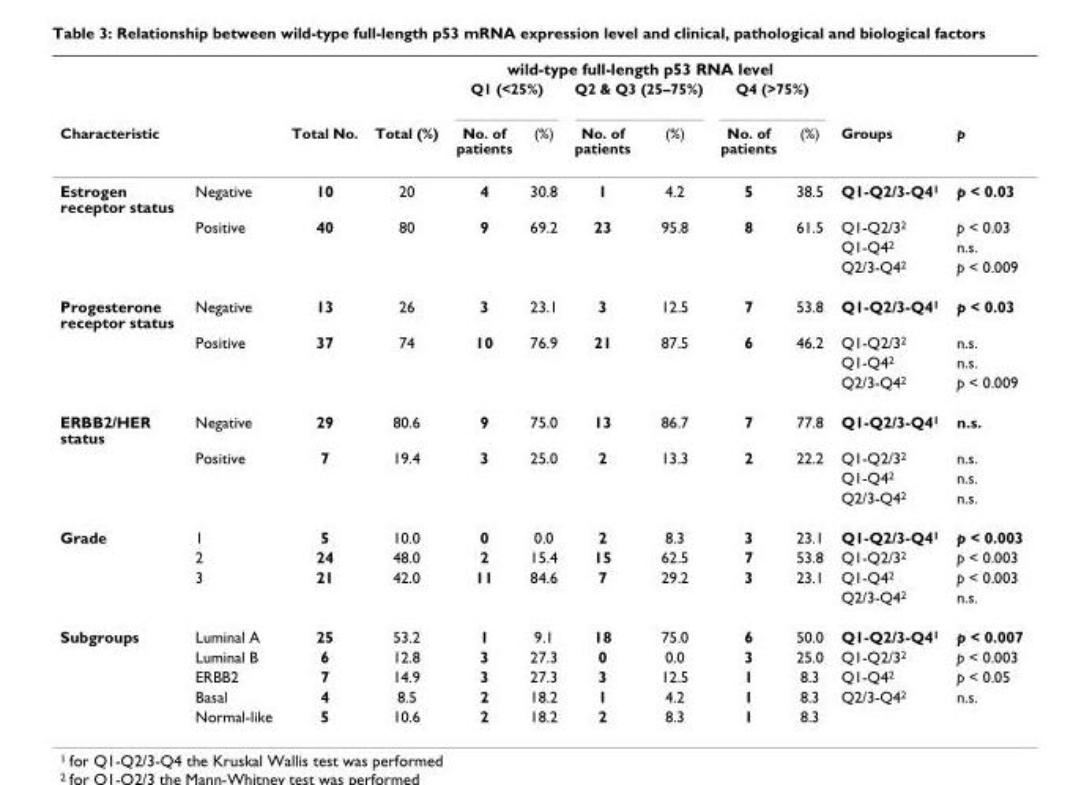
<table><thead><tr><td rowspan="3">Characteristic</td><td rowspan="3"></td><td rowspan="3">Total No.</td><td rowspan="3">Total (%)</td><td colspan="6">wild-type full-length p53 RNA level</td><td rowspan="3">Groups</td><td rowspan="3">p</td></tr><tr><td colspan="2">Q1 (&lt;25%)</td><td colspan="2">Q2 &amp; Q3 (25–75%)</td><td colspan="2">Q4 (&gt;75%)</td></tr><tr><td>No. of patients</td><td>(%)</td><td>No. of patients</td><td>(%)</td><td>No. of patients</td><td>(%)</td></tr></thead><tbody><tr><td rowspan="4">Estrogen receptor status</td><td>Negative</td><td>10</td><td>20</td><td>4</td><td>30.8</td><td>1</td><td>4.2</td><td>5</td><td>38.5</td><td>Q1-Q2/3-Q4<sup>1</sup></td><td>p &lt; 0.03</td></tr><tr><td>Positive</td><td>40</td><td>80</td><td>9</td><td>69.2</td><td>23</td><td>95.8</td><td>8</td><td>61.5</td><td>Q1-Q2/3<sup>2</sup></td><td>p &lt; 0.03</td></tr><tr><td></td><td></td><td></td><td></td><td></td><td></td><td></td><td></td><td></td><td>Q1-Q4<sup>2</sup></td><td>n.s.</td></tr><tr><td></td><td></td><td></td><td></td><td></td><td></td><td></td><td></td><td></td><td>Q2/3-Q4<sup>2</sup></td><td>p &lt; 0.009</td></tr><tr><td rowspan="4">Progesterone receptor status</td><td>Negative</td><td>13</td><td>26</td><td>3</td><td>23.1</td><td>3</td><td>12.5</td><td>7</td><td>53.8</td><td>Q1-Q2/3-Q4<sup>1</sup></td><td>p &lt; 0.03</td></tr><tr><td>Positive</td><td>37</td><td>74</td><td>10</td><td>76.9</td><td>21</td><td>87.5</td><td>6</td><td>46.2</td><td>Q1-Q2/3<sup>2</sup></td><td>n.s.</td></tr><tr><td></td><td></td><td></td><td></td><td></td><td></td><td></td><td></td><td></td><td>Q1-Q4<sup>2</sup></td><td>n.s.</td></tr><tr><td></td><td></td><td></td><td></td><td></td><td></td><td></td><td></td><td></td><td>Q2/3-Q4<sup>2</sup></td><td>p &lt; 0.009</td></tr><tr><td rowspan="4">ERBB2/HER status</td><td>Negative</td><td>29</td><td>80.6</td><td>9</td><td>75.0</td><td>13</td><td>86.7</td><td>7</td><td>77.8</td><td>Q1-Q2/3-Q4<sup>1</sup></td><td>n.s.</td></tr><tr><td>Positive</td><td>7</td><td>19.4</td><td>3</td><td>25.0</td><td>2</td><td>13.3</td><td>2</td><td>22.2</td><td>Q1-Q2/3<sup>2</sup></td><td>n.s.</td></tr><tr><td></td><td></td><td></td><td></td><td></td><td></td><td></td><td></td><td></td><td>Q1-Q4<sup>2</sup></td><td>n.s.</td></tr><tr><td></td><td></td><td></td><td></td><td></td><td></td><td></td><td></td><td></td><td>Q2/3-Q4<sup>2</sup></td><td>n.s.</td></tr><tr><td rowspan="4">Grade</td><td>1</td><td>5</td><td>10.0</td><td>0</td><td>0.0</td><td>2</td><td>8.3</td><td>3</td><td>23.1</td><td>Q1-Q2/3-Q4<sup>1</sup></td><td>p &lt; 0.003</td></tr><tr><td>2</td><td>24</td><td>48.0</td><td>2</td><td>15.4</td><td>15</td><td>62.5</td><td>7</td><td>53.8</td><td>Q1-Q2/3<sup>2</sup></td><td>p &lt; 0.003</td></tr><tr><td>3</td><td>21</td><td>42.0</td><td>11</td><td>84.6</td><td>7</td><td>29.2</td><td>3</td><td>23.1</td><td>Q1-Q4<sup>2</sup></td><td>p &lt; 0.003</td></tr><tr><td></td><td></td><td></td><td></td><td></td><td></td><td></td><td></td><td></td><td>Q2/3-Q4<sup>2</sup></td><td>n.s.</td></tr><tr><td rowspan="5">Subgroups</td><td>Luminal A</td><td>25</td><td>53.2</td><td>1</td><td>9.1</td><td>18</td><td>75.0</td><td>6</td><td>50.0</td><td>Q1-Q2/3-Q4<sup>1</sup></td><td>p &lt; 0.007</td></tr><tr><td>Luminal B</td><td>6</td><td>12.8</td><td>3</td><td>27.3</td><td>0</td><td>0.0</td><td>3</td><td>25.0</td><td>Q1-Q2/3<sup>2</sup></td><td>p &lt; 0.003</td></tr><tr><td>ERBB2</td><td>7</td><td>14.9</td><td>3</td><td>27.3</td><td>3</td><td>12.5</td><td>1</td><td>8.3</td><td>Q1-Q4<sup>2</sup></td><td>p &lt; 0.05</td></tr><tr><td>Basal</td><td>4</td><td>8.5</td><td>2</td><td>18.2</td><td>1</td><td>4.2</td><td>1</td><td>8.3</td><td>Q2/3-Q4<sup>2</sup></td><td>n.s.</td></tr><tr><td>Normal-like</td><td>5</td><td>10.6</td><td>2</td><td>18.2</td><td>2</td><td>8.3</td><td>1</td><td>8.3</td><td></td><td></td></tr></tbody></table>